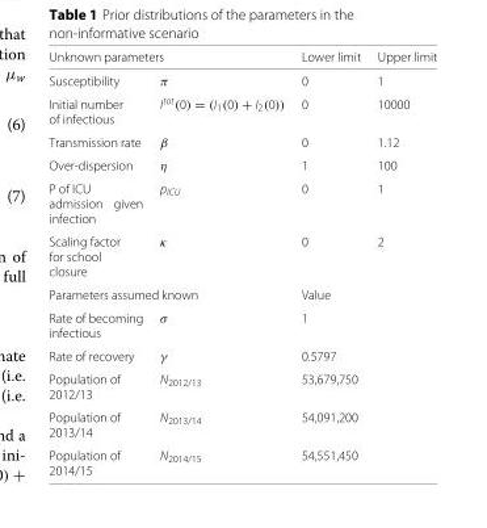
<table><thead><tr><td colspan="2">Unknown parameters</td><td rowspan="2">Lower limit 0</td><td rowspan="2">Upper limit 1</td></tr><tr><td>Susceptibility</td><td>π</td></tr></thead><tbody><tr><td>Initial number of infectious</td><td>I<sup>tot</sup>(0) = (I<sub>1</sub>(0) + I<sub>2</sub>(0))</td><td>0</td><td>10000</td></tr><tr><td>Transmission rate</td><td>β</td><td>0</td><td>1.12</td></tr><tr><td>Over-dispersion</td><td>η</td><td>1</td><td>100</td></tr><tr><td>P of ICU admission given infection</td><td>p<sub>ICU</sub></td><td>0</td><td>1</td></tr><tr><td>Scaling factor for school closure</td><td>κ</td><td>0</td><td>2</td></tr><tr><td colspan="2">Parameters assumed known</td><td>Value</td><td></td></tr><tr><td>Rate of becoming infectious</td><td>σ</td><td>1</td><td></td></tr><tr><td>Rate of recovery</td><td>γ</td><td>0.5797</td><td></td></tr><tr><td>Population of 2012/13</td><td>N<sub>2012/13</sub></td><td>53,679,750</td><td></td></tr><tr><td>Population of 2013/14</td><td>N<sub>2013/14</sub></td><td>54,091,200</td><td></td></tr><tr><td>Population of 2014/15</td><td>N<sub>2014/15</sub></td><td>54,551,450</td><td></td></tr></tbody></table>